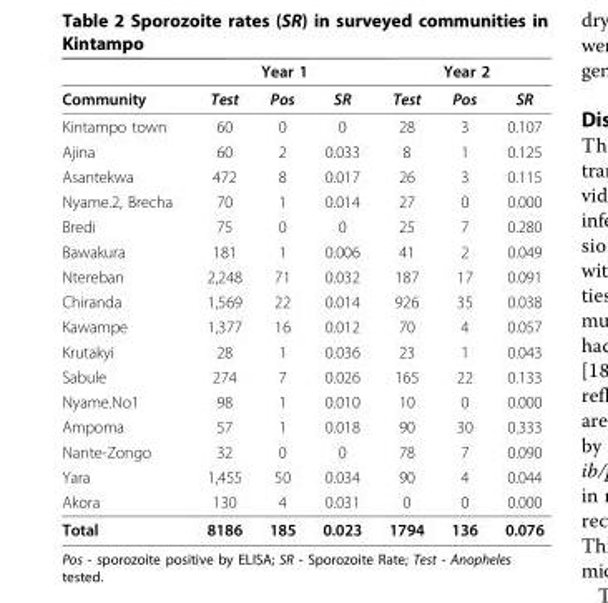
<table><thead><tr><td rowspan="2">Community</td><td colspan="3">Year 1</td><td colspan="3">Year 2</td></tr><tr><td>Test</td><td>Pos</td><td>SR</td><td>Test</td><td>Pos</td><td>SR</td></tr></thead><tbody><tr><td>Kintampo town</td><td>60</td><td>0</td><td>0</td><td>28</td><td>3</td><td>0.107</td></tr><tr><td>Ajina</td><td>60</td><td>2</td><td>0.033</td><td>8</td><td>1</td><td>0.125</td></tr><tr><td>Asantekwa</td><td>472</td><td>8</td><td>0.017</td><td>26</td><td>3</td><td>0.115</td></tr><tr><td>Nyame.2, Brecha</td><td>70</td><td>1</td><td>0.014</td><td>27</td><td>0</td><td>0.000</td></tr><tr><td>Bredi</td><td>75</td><td>0</td><td>0</td><td>25</td><td>7</td><td>0.280</td></tr><tr><td>Bawakura</td><td>181</td><td>1</td><td>0.006</td><td>41</td><td>2</td><td>0.049</td></tr><tr><td>Ntereban</td><td>2,248</td><td>71</td><td>0.032</td><td>187</td><td>17</td><td>0.091</td></tr><tr><td>Chiranda</td><td>1,569</td><td>22</td><td>0.014</td><td>926</td><td>35</td><td>0.038</td></tr><tr><td>Kawampe</td><td>1,377</td><td>16</td><td>0.012</td><td>70</td><td>4</td><td>0.057</td></tr><tr><td>Krutakyi</td><td>28</td><td>1</td><td>0.036</td><td>23</td><td>1</td><td>0.043</td></tr><tr><td>Sabule</td><td>274</td><td>7</td><td>0.026</td><td>165</td><td>22</td><td>0.133</td></tr><tr><td>Nyame.No1</td><td>98</td><td>1</td><td>0.010</td><td>10</td><td>0</td><td>0.000</td></tr><tr><td>Ampoma</td><td>57</td><td>1</td><td>0.018</td><td>90</td><td>30</td><td>0.333</td></tr><tr><td>Nante-Zongo</td><td>32</td><td>0</td><td>0</td><td>78</td><td>7</td><td>0.090</td></tr><tr><td>Yara</td><td>1,455</td><td>50</td><td>0.034</td><td>90</td><td>4</td><td>0.044</td></tr><tr><td>Akora</td><td>130</td><td>4</td><td>0.031</td><td>0</td><td>0</td><td>0.000</td></tr><tr><td>Total</td><td>8186</td><td>185</td><td>0.023</td><td>1794</td><td>136</td><td>0.076</td></tr></tbody></table>